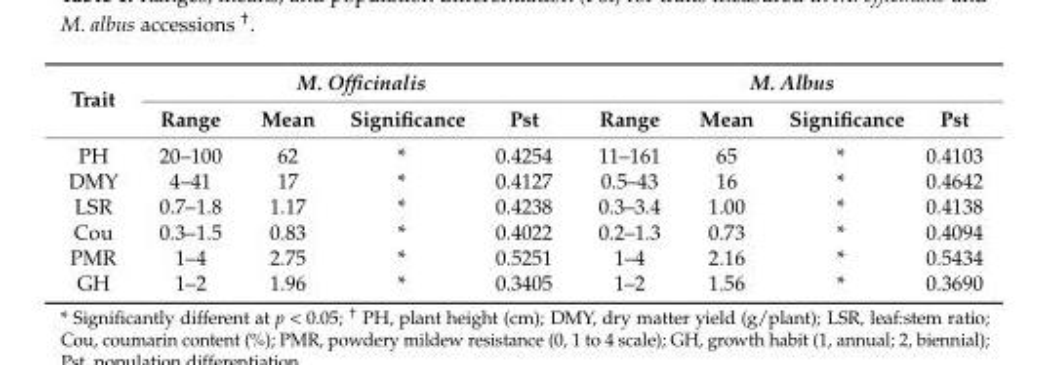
<table><thead><tr><td rowspan="2">Trait</td><td colspan="4">M. Officinalis</td><td colspan="4">M. Albus</td></tr><tr><td>Range</td><td>Mean</td><td>Significance</td><td>Pst</td><td>Range</td><td>Mean</td><td>Significance</td><td>Pst</td></tr></thead><tbody><tr><td>PH</td><td>20–100</td><td>62</td><td>*</td><td>0.4254</td><td>11–161</td><td>65</td><td>*</td><td>0.4103</td></tr><tr><td>DMY</td><td>4–41</td><td>17</td><td>*</td><td>0.4127</td><td>0.5–43</td><td>16</td><td>*</td><td>0.4642</td></tr><tr><td>LSR</td><td>0.7–1.8</td><td>1.17</td><td>*</td><td>0.4238</td><td>0.3–3.4</td><td>1.00</td><td>*</td><td>0.4138</td></tr><tr><td>Cou</td><td>0.3–1.5</td><td>0.83</td><td>*</td><td>0.4022</td><td>0.2–1.3</td><td>0.73</td><td>*</td><td>0.4094</td></tr><tr><td>PMR</td><td>1–4</td><td>2.75</td><td>*</td><td>0.5251</td><td>1–4</td><td>2.16</td><td>*</td><td>0.5434</td></tr><tr><td>GH</td><td>1–2</td><td>1.96</td><td>*</td><td>0.3405</td><td>1–2</td><td>1.56</td><td>*</td><td>0.3690</td></tr></tbody></table>